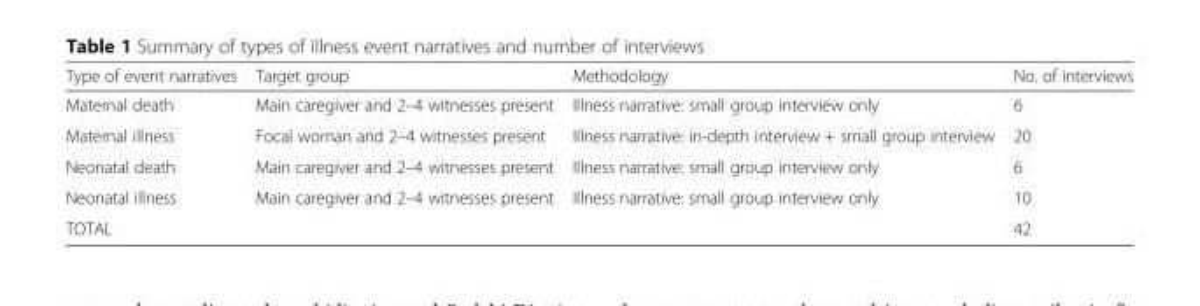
<table><thead><tr><td>Type of event narratives</td><td>Target group</td><td>Methodology</td><td>No. of interviews</td></tr></thead><tbody><tr><td>Maternal death</td><td>Main caregiver and 2–4 witnesses present</td><td>Illness narrative: small group interview only</td><td>6</td></tr><tr><td>Maternal illness</td><td>Focal woman and 2–4 witnesses present</td><td>Illness narrative: in-depth interview + small group interview</td><td>20</td></tr><tr><td>Neonatal death</td><td>Main caregiver and 2–4 witnesses present</td><td>Illness narrative: small group interview only</td><td>6</td></tr><tr><td>Neonatal illness</td><td>Main caregiver and 2–4 witnesses present</td><td>Illness narrative: small group interview only</td><td>10</td></tr><tr><td colspan="3">TOTAL</td><td>42</td></tr></tbody></table>